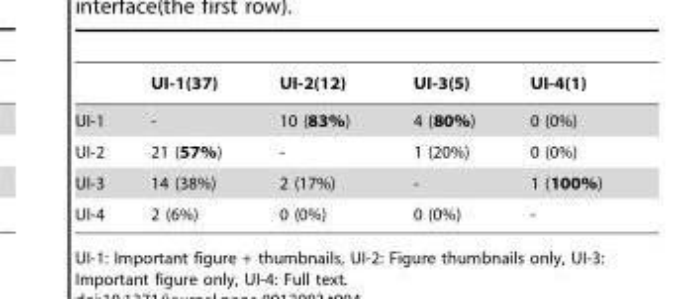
<table><thead><tr><td></td><td>UI-1(37)</td><td>UI-2(12)</td><td>UI-3(5)</td><td>UI-4(1)</td></tr></thead><tbody><tr><td>UI-1</td><td>-</td><td>10 (83%)</td><td>4 (80%)</td><td>0 (0%)</td></tr><tr><td>UI-2</td><td>21 (57%)</td><td>-</td><td>1 (20%)</td><td>0 (0%)</td></tr><tr><td>UI-3</td><td>14 (38%)</td><td>2 (17%)</td><td>-</td><td>1 (100%)</td></tr><tr><td>UI-4</td><td>2 (6%)</td><td>0 (0%)</td><td>0 (0%)</td><td>-</td></tr></tbody></table>